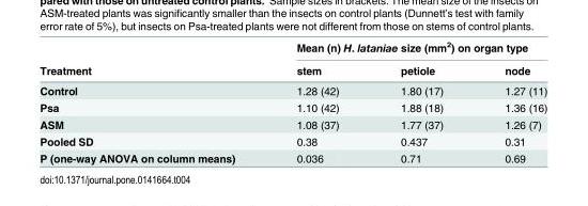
<table><thead><tr><td rowspan="2">Treatment</td><td colspan="3">Mean (n) H. lataniae size (mm<sup>2</sup>) on organ type</td></tr><tr><td>stem</td><td>petiole</td><td>node</td></tr></thead><tbody><tr><td>Control</td><td>1.28 (42)</td><td>1.80 (17)</td><td>1.27 (11)</td></tr><tr><td>Psa</td><td>1.10 (42)</td><td>1.88 (18)</td><td>1.36 (16)</td></tr><tr><td>ASM</td><td>1.08 (37)</td><td>1.77 (37)</td><td>1.26 (7)</td></tr><tr><td>Pooled SD</td><td>0.38</td><td>0.437</td><td>0.31</td></tr><tr><td>P (one-way ANOVA on column means)</td><td>0.036</td><td>0.71</td><td>0.69</td></tr></tbody></table>